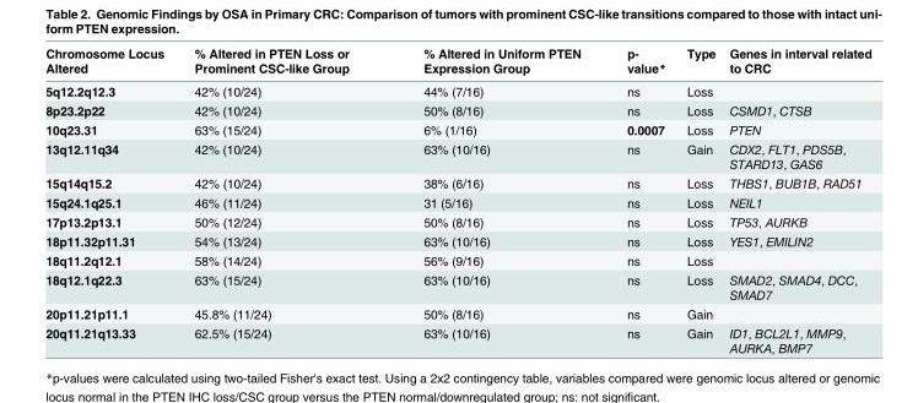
<table><thead><tr><td>Chromosome Locus Altered</td><td>% Altered in PTEN Loss or Prominent CSC-like Group</td><td>% Altered in Uniform PTEN Expression Group</td><td>p- value*</td><td>Type</td><td>Genes in interval related to CRC</td></tr></thead><tbody><tr><td>5q12.2q12.3</td><td>42% (10/24)</td><td>44% (7/16)</td><td>ns</td><td>Loss</td><td></td></tr><tr><td>8p23.2p22</td><td>42% (10/24)</td><td>50% (8/16)</td><td>ns</td><td>Loss</td><td>CSMD1, CTSB</td></tr><tr><td>10q23.31</td><td>63% (15/24)</td><td>6% (1/16)</td><td>0.0007</td><td>Loss</td><td>PTEN</td></tr><tr><td>13q12.11q34</td><td>42% (10/24)</td><td>63% (10/16)</td><td>ns</td><td>Gain</td><td>CDX2, FLT1, PDS5B, STARD13, GAS6</td></tr><tr><td>15q14q15.2</td><td>42% (10/24)</td><td>38% (6/16)</td><td>ns</td><td>Loss</td><td>THBS1, BUB1B, RAD51</td></tr><tr><td>15q24.1q25.1</td><td>46% (11/24)</td><td>31 (5/16)</td><td>ns</td><td>Loss</td><td>NEIL1</td></tr><tr><td>17p13.2p13.1</td><td>50% (12/24)</td><td>50% (8/16)</td><td>ns</td><td>Loss</td><td>TP53, AURKB</td></tr><tr><td>18p11.32p11.31</td><td>54% (13/24)</td><td>63% (10/16)</td><td>ns</td><td>Loss</td><td>YES1, EMILIN2</td></tr><tr><td>18q11.2q12.1</td><td>58% (14/24)</td><td>56% (9/16)</td><td>ns</td><td>Loss</td><td></td></tr><tr><td>18q12.1q22.3</td><td>63% (15/24)</td><td>63% (10/16)</td><td>ns</td><td>Loss</td><td>SMAD2, SMAD4, DCC, SMAD7</td></tr><tr><td>20p11.21p11.1</td><td>45.8% (11/24)</td><td>50% (8/16)</td><td>ns</td><td>Gain</td><td></td></tr><tr><td>20q11.21q13.33</td><td>62.5% (15/24)</td><td>63% (10/16)</td><td>ns</td><td>Gain</td><td>ID1, BCL2L1, MMP9, AURKA, BMP7</td></tr></tbody></table>